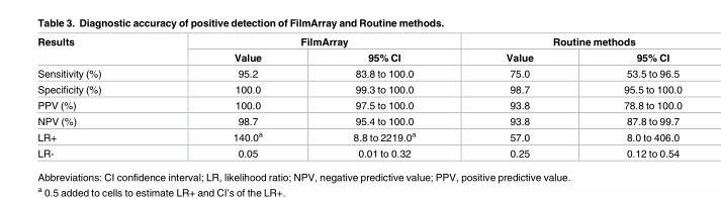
<table><thead><tr><td rowspan="2">Results</td><td colspan="2">FilmArray</td><td colspan="2">Routine methods</td></tr><tr><td>Value</td><td>95% CI</td><td>Value</td><td>95% CI</td></tr></thead><tbody><tr><td>Sensitivity (%)</td><td>95.2</td><td>83.8 to 100.0</td><td>75.0</td><td>53.5 to 96.5</td></tr><tr><td>Specificity (%)</td><td>100.0</td><td>99.3 to 100.0</td><td>98.7</td><td>95.5 to 100.0</td></tr><tr><td>PPV (%)</td><td>100.0</td><td>97.5 to 100.0</td><td>93.8</td><td>78.8 to 100.0</td></tr><tr><td>NPV (%)</td><td>98.7</td><td>95.4 to 100.0</td><td>93.8</td><td>87.8 to 99.7</td></tr><tr><td>LR+</td><td>140.0<sup>a</sup></td><td>8.8 to 2219.0<sup>a</sup></td><td>57.0</td><td>8.0 to 406.0</td></tr><tr><td>LR-</td><td>0.05</td><td>0.01 to 0.32</td><td>0.25</td><td>0.12 to 0.54</td></tr></tbody></table>